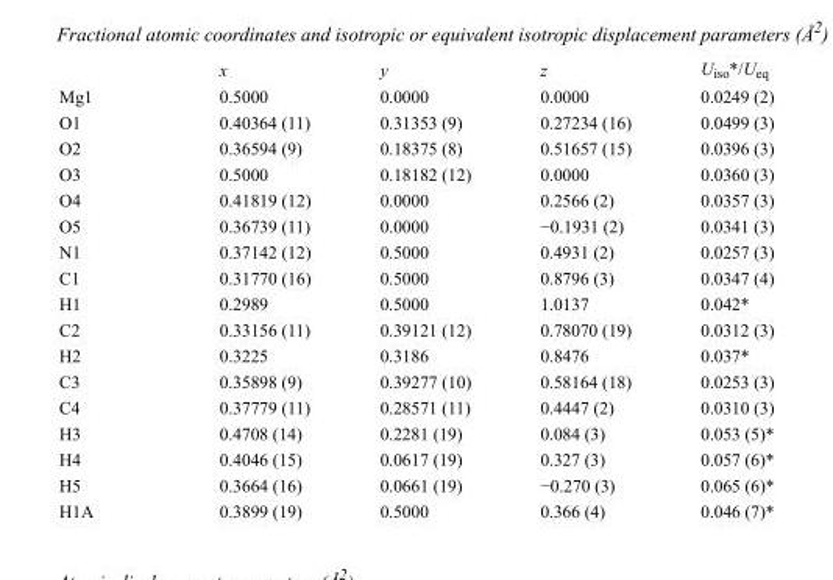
<table><thead><tr><td></td><td>x</td><td>y</td><td>z</td><td>U<sub>iso</sub>*/U<sub>eq</sub></td></tr></thead><tbody><tr><td>Mg1</td><td>0.5000</td><td>0.0000</td><td>0.0000</td><td>0.0249 (2)</td></tr><tr><td>O1</td><td>0.40364 (11)</td><td>0.31353 (9)</td><td>0.27234 (16)</td><td>0.0499 (3)</td></tr><tr><td>O2</td><td>0.36594 (9)</td><td>0.18375 (8)</td><td>0.51657 (15)</td><td>0.0396 (3)</td></tr><tr><td>O3</td><td>0.5000</td><td>0.18182 (12)</td><td>0.0000</td><td>0.0360 (3)</td></tr><tr><td>O4</td><td>0.41819 (12)</td><td>0.0000</td><td>0.2566 (2)</td><td>0.0357 (3)</td></tr><tr><td>O5</td><td>0.36739 (11)</td><td>0.0000</td><td>−0.1931 (2)</td><td>0.0341 (3)</td></tr><tr><td>N1</td><td>0.37142 (12)</td><td>0.5000</td><td>0.4931 (2)</td><td>0.0257 (3)</td></tr><tr><td>C1</td><td>0.31770 (16)</td><td>0.5000</td><td>0.8796 (3)</td><td>0.0347 (4)</td></tr><tr><td>H1</td><td>0.2989</td><td>0.5000</td><td>1.0137</td><td>0.042*</td></tr><tr><td>C2</td><td>0.33156 (11)</td><td>0.39121 (12)</td><td>0.78070 (19)</td><td>0.0312 (3)</td></tr><tr><td>H2</td><td>0.3225</td><td>0.3186</td><td>0.8476</td><td>0.037*</td></tr><tr><td>C3</td><td>0.35898 (9)</td><td>0.39277 (10)</td><td>0.58164 (18)</td><td>0.0253 (3)</td></tr><tr><td>C4</td><td>0.37779 (11)</td><td>0.28571 (11)</td><td>0.4447 (2)</td><td>0.0310 (3)</td></tr><tr><td>H3</td><td>0.4708 (14)</td><td>0.2281 (19)</td><td>0.084 (3)</td><td>0.053 (5)*</td></tr><tr><td>H4</td><td>0.4046 (15)</td><td>0.0617 (19)</td><td>0.327 (3)</td><td>0.057 (6)*</td></tr><tr><td>H5</td><td>0.3664 (16)</td><td>0.0661 (19)</td><td>−0.270 (3)</td><td>0.065 (6)*</td></tr><tr><td>H1A</td><td>0.3899 (19)</td><td>0.5000</td><td>0.366 (4)</td><td>0.046 (7)*</td></tr></tbody></table>